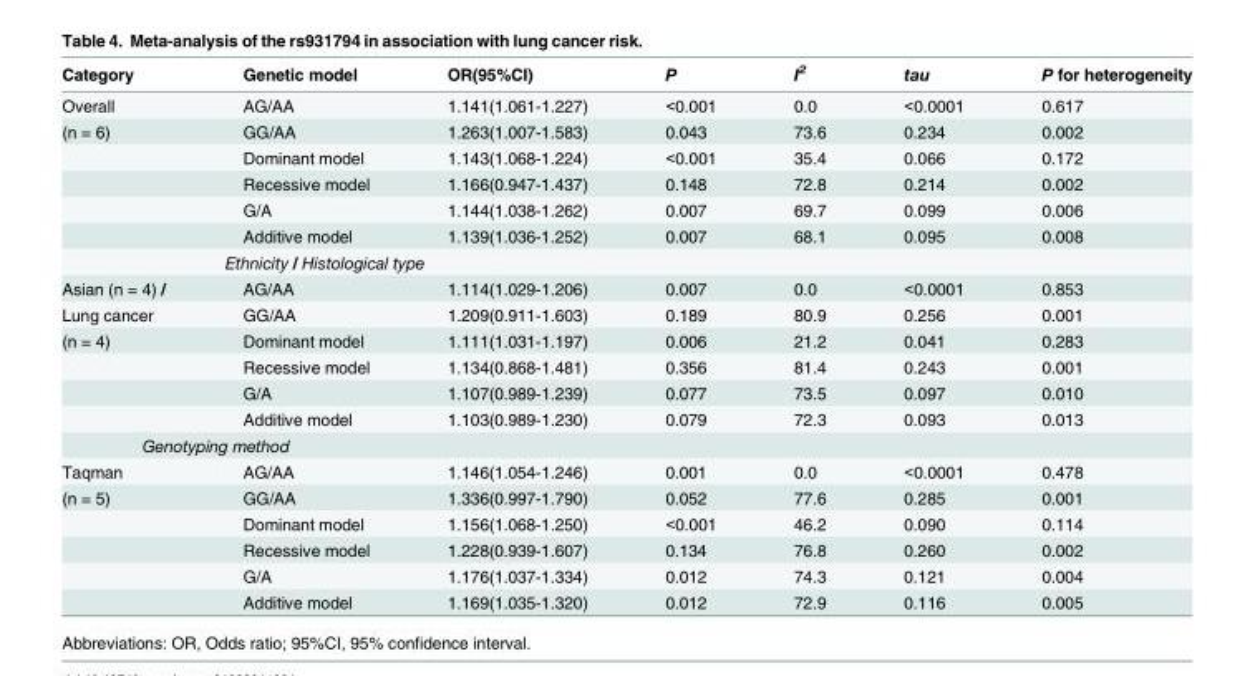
<table><thead><tr><td>Category</td><td>Genetic model</td><td>OR(95%CI)</td><td>P</td><td>I<sup>2</sup></td><td>tau</td><td>P for heterogeneity</td></tr></thead><tbody><tr><td>Overall</td><td>AG/AA</td><td>1.141(1.061-1.227)</td><td>&lt;0.001</td><td>0.0</td><td>&lt;0.0001</td><td>0.617</td></tr><tr><td rowspan="5">(n = 6)</td><td>GG/AA</td><td>1.263(1.007-1.583)</td><td>0.043</td><td>73.6</td><td>0.234</td><td>0.002</td></tr><tr><td>Dominant model</td><td>1.143(1.068-1.224)</td><td>&lt;0.001</td><td>35.4</td><td>0.066</td><td>0.172</td></tr><tr><td>Recessive model</td><td>1.166(0.947-1.437)</td><td>0.148</td><td>72.8</td><td>0.214</td><td>0.002</td></tr><tr><td>G/A</td><td>1.144(1.038-1.262)</td><td>0.007</td><td>69.7</td><td>0.099</td><td>0.006</td></tr><tr><td>Additive model</td><td>1.139(1.036-1.252)</td><td>0.007</td><td>68.1</td><td>0.095</td><td>0.008</td></tr><tr><td colspan="7">Ethnicity / Histological type</td></tr><tr><td>Asian (n = 4) /</td><td>AG/AA</td><td>1.114(1.029-1.206)</td><td>0.007</td><td>0.0</td><td>&lt;0.0001</td><td>0.853</td></tr><tr><td>Lung cancer</td><td>GG/AA</td><td>1.209(0.911-1.603)</td><td>0.189</td><td>80.9</td><td>0.256</td><td>0.001</td></tr><tr><td rowspan="4">(n = 4)</td><td>Dominant model</td><td>1.111(1.031-1.197)</td><td>0.006</td><td>21.2</td><td>0.041</td><td>0.283</td></tr><tr><td>Recessive model</td><td>1.134(0.868-1.481)</td><td>0.356</td><td>81.4</td><td>0.243</td><td>0.001</td></tr><tr><td>G/A</td><td>1.107(0.989-1.239)</td><td>0.077</td><td>73.5</td><td>0.097</td><td>0.010</td></tr><tr><td>Additive model</td><td>1.103(0.989-1.230)</td><td>0.079</td><td>72.3</td><td>0.093</td><td>0.013</td></tr><tr><td colspan="7">Genotyping method</td></tr><tr><td>Taqman</td><td>AG/AA</td><td>1.146(1.054-1.246)</td><td>0.001</td><td>0.0</td><td>&lt;0.0001</td><td>0.478</td></tr><tr><td rowspan="5">(n = 5)</td><td>GG/AA</td><td>1.336(0.997-1.790)</td><td>0.052</td><td>77.6</td><td>0.285</td><td>0.001</td></tr><tr><td>Dominant model</td><td>1.156(1.068-1.250)</td><td>&lt;0.001</td><td>46.2</td><td>0.090</td><td>0.114</td></tr><tr><td>Recessive model</td><td>1.228(0.939-1.607)</td><td>0.134</td><td>76.8</td><td>0.260</td><td>0.002</td></tr><tr><td>G/A</td><td>1.176(1.037-1.334)</td><td>0.012</td><td>74.3</td><td>0.121</td><td>0.004</td></tr><tr><td>Additive model</td><td>1.169(1.035-1.320)</td><td>0.012</td><td>72.9</td><td>0.116</td><td>0.005</td></tr></tbody></table>